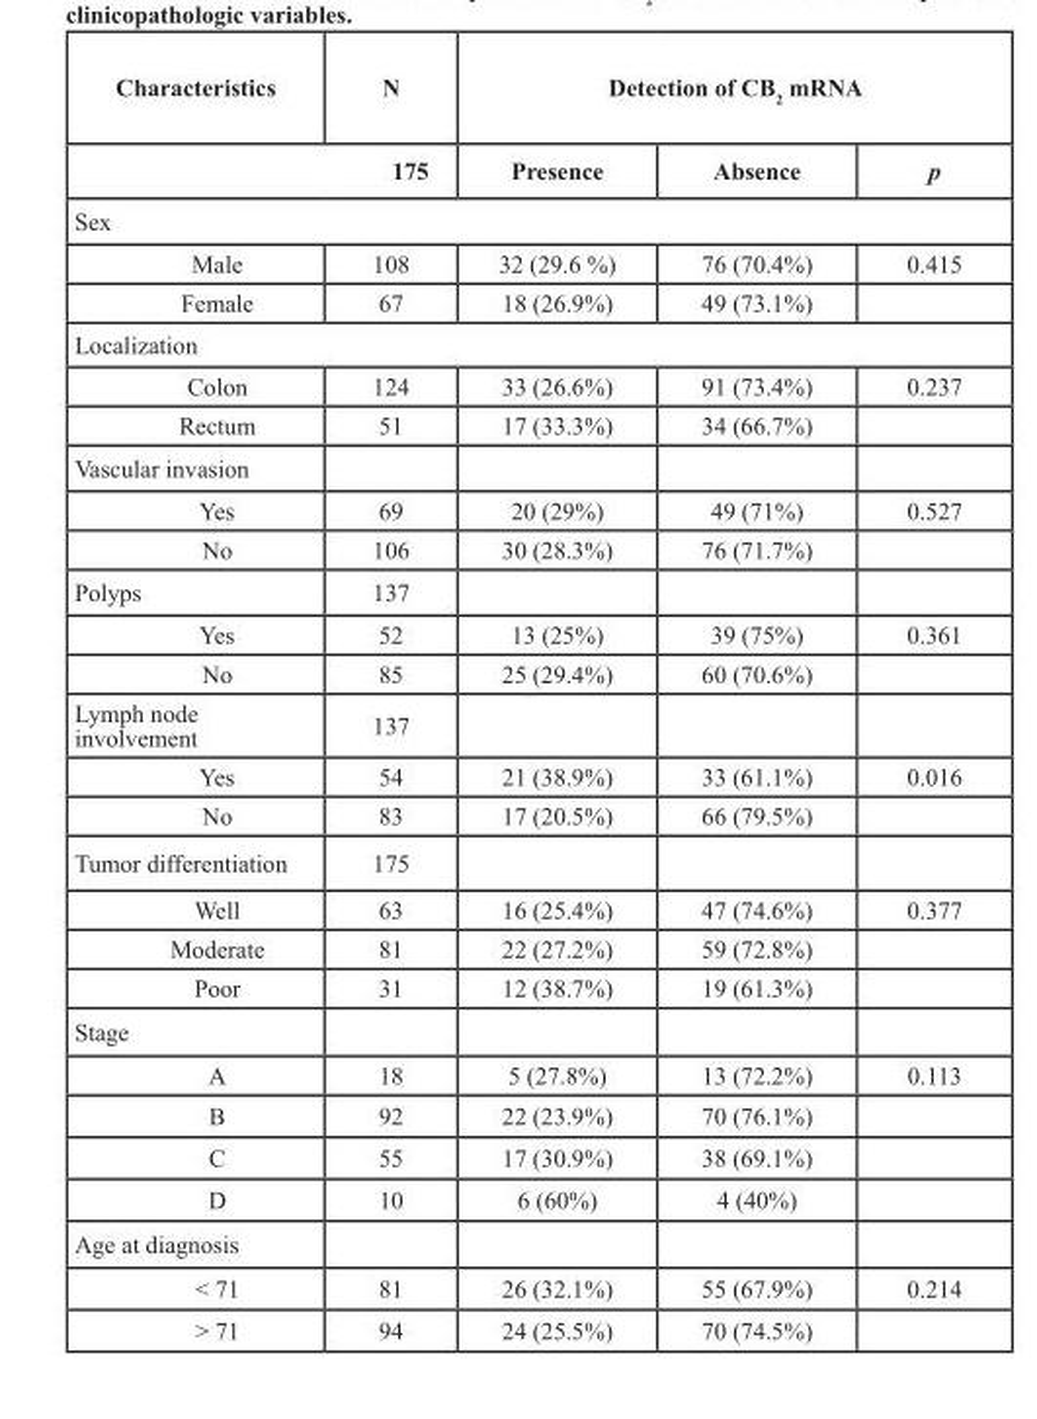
<table><thead><tr><td rowspan="2">Characteristics</td><td rowspan="2">N 175</td><td colspan="3">Detection of CB<sub>2</sub> mRNA</td></tr><tr><td>Presence</td><td>Absence</td><td>p</td></tr></thead><tbody><tr><td colspan="5">Sex</td></tr><tr><td>Male</td><td>108</td><td>32 (29.6 %)</td><td>76 (70.4%)</td><td>0.415</td></tr><tr><td>Female</td><td>67</td><td>18 (26.9%)</td><td>49 (73.1%)</td><td></td></tr><tr><td colspan="5">Localization</td></tr><tr><td>Colon</td><td>124</td><td>33 (26.6%)</td><td>91 (73.4%)</td><td>0.237</td></tr><tr><td>Rectum</td><td>51</td><td>17 (33.3%)</td><td>34 (66.7%)</td><td></td></tr><tr><td colspan="5">Vascular invasion</td></tr><tr><td>Yes</td><td>69</td><td>20 (29%)</td><td>49 (71%)</td><td>0.527</td></tr><tr><td>No</td><td>106</td><td>30 (28.3%)</td><td>76 (71.7%)</td><td></td></tr><tr><td>Polyps</td><td>137</td><td></td><td></td><td></td></tr><tr><td>Yes</td><td>52</td><td>13 (25%)</td><td>39 (75%)</td><td>0.361</td></tr><tr><td>No</td><td>85</td><td>25 (29.4%)</td><td>60 (70.6%)</td><td></td></tr><tr><td>Lymph node involvement</td><td>137</td><td></td><td></td><td></td></tr><tr><td>Yes</td><td>54</td><td>21 (38.9%)</td><td>33 (61.1%)</td><td>0.016</td></tr><tr><td>No</td><td>83</td><td>17 (20.5%)</td><td>66 (79.5%)</td><td></td></tr><tr><td>Tumor differentiation</td><td>175</td><td></td><td></td><td></td></tr><tr><td>Well</td><td>63</td><td>16 (25.4%)</td><td>47 (74.6%)</td><td>0.377</td></tr><tr><td>Moderate</td><td>81</td><td>22 (27.2%)</td><td>59 (72.8%)</td><td></td></tr><tr><td>Poor</td><td>31</td><td>12 (38.7%)</td><td>19 (61.3%)</td><td></td></tr><tr><td colspan="5">Stage</td></tr><tr><td>A</td><td>18</td><td>5 (27.8%)</td><td>13 (72.2%)</td><td>0.113</td></tr><tr><td>B</td><td>92</td><td>22 (23.9%)</td><td>70 (76.1%)</td><td></td></tr><tr><td>C</td><td>55</td><td>17 (30.9%)</td><td>38 (69.1%)</td><td></td></tr><tr><td>D</td><td>10</td><td>6 (60%)</td><td>4 (40%)</td><td></td></tr><tr><td colspan="5">Age at diagnosis</td></tr><tr><td>&lt; 71</td><td>81</td><td>26 (32.1%)</td><td>55 (67.9%)</td><td>0.214</td></tr><tr><td>&gt; 71</td><td>94</td><td>24 (25.5%)</td><td>70 (74.5%)</td><td></td></tr></tbody></table>